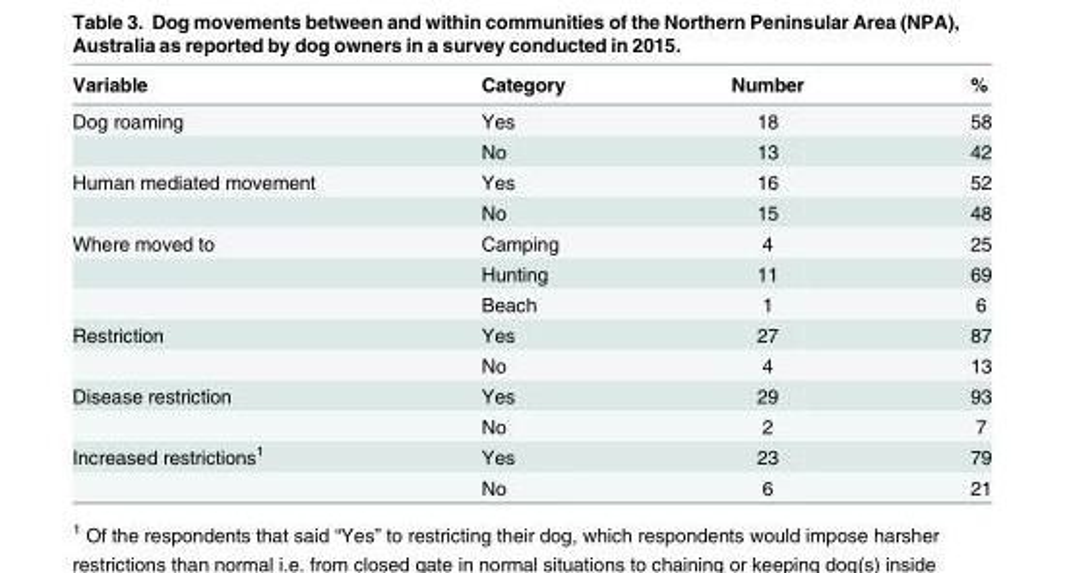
<table><thead><tr><td>Variable</td><td>Category</td><td>Number</td><td>%</td></tr></thead><tbody><tr><td rowspan="2">Dog roaming</td><td>Yes</td><td>18</td><td>58</td></tr><tr><td>No</td><td>13</td><td>42</td></tr><tr><td rowspan="2">Human mediated movement</td><td>Yes</td><td>16</td><td>52</td></tr><tr><td>No</td><td>15</td><td>48</td></tr><tr><td rowspan="3">Where moved to</td><td>Camping</td><td>4</td><td>25</td></tr><tr><td>Hunting</td><td>11</td><td>69</td></tr><tr><td>Beach</td><td>1</td><td>6</td></tr><tr><td rowspan="2">Restriction</td><td>Yes</td><td>27</td><td>87</td></tr><tr><td>No</td><td>4</td><td>13</td></tr><tr><td rowspan="2">Disease restriction</td><td>Yes</td><td>29</td><td>93</td></tr><tr><td>No</td><td>2</td><td>7</td></tr><tr><td rowspan="2">Increased restrictions<sup>1</sup></td><td>Yes</td><td>23</td><td>79</td></tr><tr><td>No</td><td>6</td><td>21</td></tr></tbody></table>